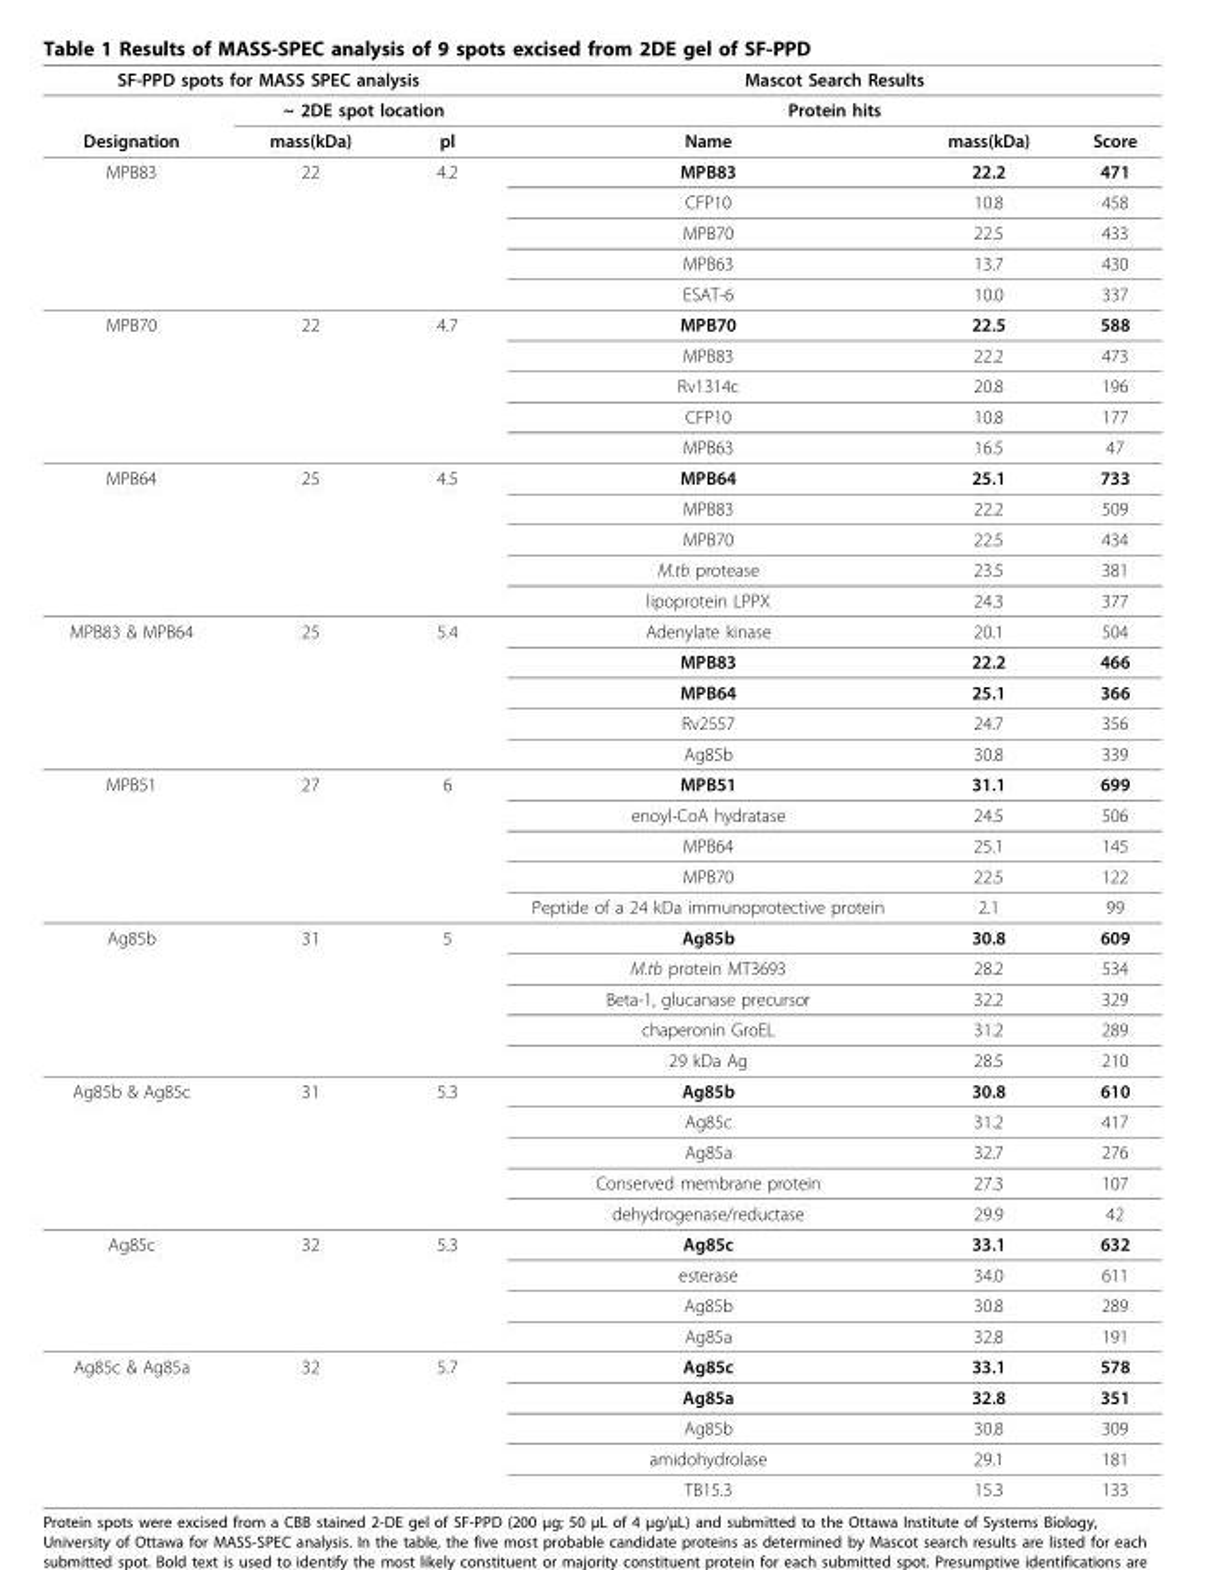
<table><thead><tr><td colspan="3">SF-PPD spots for MASS SPEC analysis</td><td rowspan="2" colspan="3">Mascot Search Results Protein hits</td></tr><tr><td rowspan="2">Designation</td><td colspan="2">~ 2DE spot location</td></tr><tr><td>mass(kDa)</td><td>pl</td><td>Name</td><td>mass(kDa)</td><td>Score</td></tr></thead><tbody><tr><td rowspan="5">MPB83</td><td>22</td><td>4.2</td><td>MPB83</td><td>22.2</td><td>471</td></tr><tr><td></td><td></td><td>CFP10</td><td>10.8</td><td>458</td></tr><tr><td></td><td></td><td>MPB70</td><td>22.5</td><td>433</td></tr><tr><td></td><td></td><td>MPB63</td><td>13.7</td><td>430</td></tr><tr><td></td><td></td><td>ESAT-6</td><td>10.0</td><td>337</td></tr><tr><td rowspan="5">MPB70</td><td>22</td><td>4.7</td><td>MPB70</td><td>22.5</td><td>588</td></tr><tr><td></td><td></td><td>MPB83</td><td>22.2</td><td>473</td></tr><tr><td></td><td></td><td>Rv1314c</td><td>20.8</td><td>196</td></tr><tr><td></td><td></td><td>CFP10</td><td>10.8</td><td>177</td></tr><tr><td></td><td></td><td>MPB63</td><td>16.5</td><td>47</td></tr><tr><td rowspan="5">MPB64</td><td>25</td><td>4.5</td><td>MPB64</td><td>25.1</td><td>733</td></tr><tr><td></td><td></td><td>MPB83</td><td>22.2</td><td>509</td></tr><tr><td></td><td></td><td>MPB70</td><td>22.5</td><td>434</td></tr><tr><td></td><td></td><td>M.tb protease</td><td>23.5</td><td>381</td></tr><tr><td></td><td></td><td>lipoprotein LPPX</td><td>24.3</td><td>377</td></tr><tr><td rowspan="5">MPB83 &amp; MPB64</td><td>25</td><td>5.4</td><td>Adenylate kinase</td><td>20.1</td><td>504</td></tr><tr><td></td><td></td><td>MPB83</td><td>22.2</td><td>466</td></tr><tr><td></td><td></td><td>MPB64</td><td>25.1</td><td>366</td></tr><tr><td></td><td></td><td>Rv2557</td><td>24.7</td><td>356</td></tr><tr><td></td><td></td><td>Ag85b</td><td>30.8</td><td>339</td></tr><tr><td rowspan="5">MPB51</td><td>27</td><td>6</td><td>MPB51</td><td>31.1</td><td>699</td></tr><tr><td></td><td></td><td>enoyl-CoA hydratase</td><td>24.5</td><td>506</td></tr><tr><td></td><td></td><td>MPB64</td><td>25.1</td><td>145</td></tr><tr><td></td><td></td><td>MPB70</td><td>22.5</td><td>122</td></tr><tr><td></td><td></td><td>Peptide of a 24 kDa immunoprotective protein</td><td>2.1</td><td>99</td></tr><tr><td rowspan="5">Ag85b</td><td>31</td><td>5</td><td>Ag85b</td><td>30.8</td><td>609</td></tr><tr><td></td><td></td><td>M.tb protein MT3693</td><td>28.2</td><td>534</td></tr><tr><td></td><td></td><td>Beta-1, glucanase precursor</td><td>32.2</td><td>329</td></tr><tr><td></td><td></td><td>chaperonin GroEL</td><td>31.2</td><td>289</td></tr><tr><td></td><td></td><td>29 kDa Ag</td><td>28.5</td><td>210</td></tr><tr><td rowspan="5">Ag85b &amp; Ag85c</td><td>31</td><td>5.3</td><td>Ag85b</td><td>30.8</td><td>610</td></tr><tr><td></td><td></td><td>Ag85c</td><td>31.2</td><td>417</td></tr><tr><td></td><td></td><td>Ag85a</td><td>32.7</td><td>276</td></tr><tr><td></td><td></td><td>Conserved membrane protein</td><td>27.3</td><td>107</td></tr><tr><td></td><td></td><td>dehydrogenase/reductase</td><td>29.9</td><td>42</td></tr><tr><td rowspan="4">Ag85c</td><td>32</td><td>5.3</td><td>Ag85c</td><td>33.1</td><td>632</td></tr><tr><td></td><td></td><td>esterase</td><td>34.0</td><td>611</td></tr><tr><td></td><td></td><td>Ag85b</td><td>30.8</td><td>289</td></tr><tr><td></td><td></td><td>Ag85a</td><td>32.8</td><td>191</td></tr><tr><td rowspan="5">Ag85c &amp; Ag85a</td><td>32</td><td>5.7</td><td>Ag85c</td><td>33.1</td><td>578</td></tr><tr><td></td><td></td><td>Ag85a</td><td>32.8</td><td>351</td></tr><tr><td></td><td></td><td>Ag85b</td><td>30.8</td><td>309</td></tr><tr><td></td><td></td><td>amidohydrolase</td><td>29.1</td><td>181</td></tr><tr><td></td><td></td><td>TB15.3</td><td>15.3</td><td>133</td></tr></tbody></table>